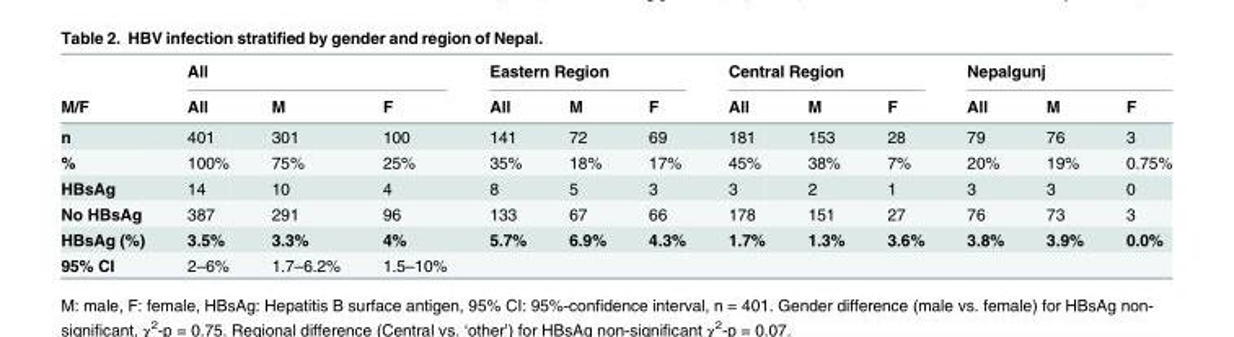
<table><thead><tr><td rowspan="2">M/F</td><td colspan="3">All</td><td colspan="3">Eastern Region</td><td colspan="3">Central Region</td><td colspan="3">Nepalgunj</td></tr><tr><td>All</td><td>M</td><td>F</td><td>All</td><td>M</td><td>F</td><td>All</td><td>M</td><td>F</td><td>All</td><td>M</td><td>F</td></tr></thead><tbody><tr><td>n</td><td>401</td><td>301</td><td>100</td><td>141</td><td>72</td><td>69</td><td>181</td><td>153</td><td>28</td><td>79</td><td>76</td><td>3</td></tr><tr><td>%</td><td>100%</td><td>75%</td><td>25%</td><td>35%</td><td>18%</td><td>17%</td><td>45%</td><td>38%</td><td>7%</td><td>20%</td><td>19%</td><td>0.75%</td></tr><tr><td>HBsAg</td><td>14</td><td>10</td><td>4</td><td>8</td><td>5</td><td>3</td><td>3</td><td>2</td><td>1</td><td>3</td><td>3</td><td>0</td></tr><tr><td>No HBsAg</td><td>387</td><td>291</td><td>96</td><td>133</td><td>67</td><td>66</td><td>178</td><td>151</td><td>27</td><td>76</td><td>73</td><td>3</td></tr><tr><td>HBsAg (%)</td><td>3.5%</td><td>3.3%</td><td>4%</td><td>5.7%</td><td>6.9%</td><td>4.3%</td><td>1.7%</td><td>1.3%</td><td>3.6%</td><td>3.8%</td><td>3.9%</td><td>0.0%</td></tr><tr><td>95% CI</td><td>2–6%</td><td>1.7–6.2%</td><td>1.5–10%</td><td></td><td></td><td></td><td></td><td></td><td></td><td></td><td></td><td></td></tr></tbody></table>